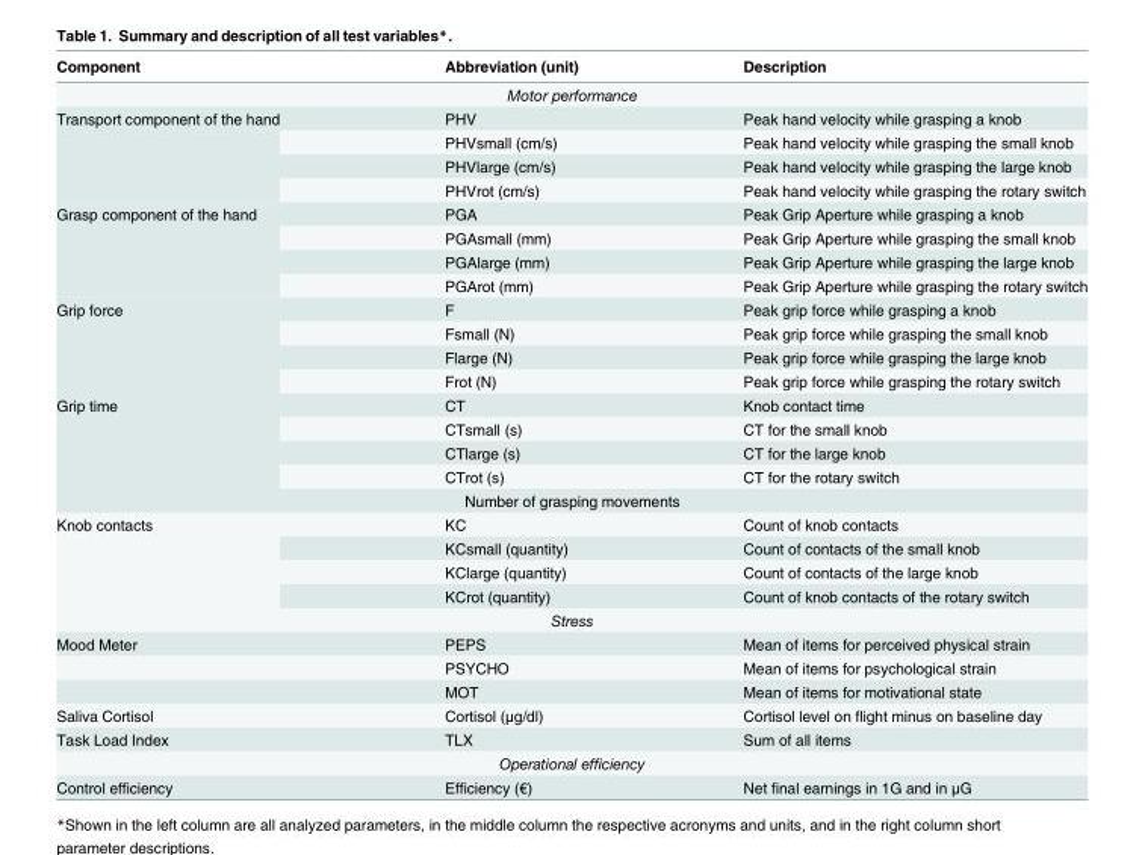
<table><thead><tr><td>Component</td><td>Abbreviation (unit)</td><td>Description</td></tr></thead><tbody><tr><td colspan="3">Motor performance</td></tr><tr><td rowspan="4">Transport component of the hand</td><td>PHV</td><td>Peak hand velocity while grasping a knob</td></tr><tr><td>PHVsmall (cm/s)</td><td>Peak hand velocity while grasping the small knob</td></tr><tr><td>PHVlarge (cm/s)</td><td>Peak hand velocity while grasping the large knob</td></tr><tr><td>PHVrot (cm/s)</td><td>Peak hand velocity while grasping the rotary switch</td></tr><tr><td rowspan="4">Grasp component of the hand</td><td>PGA</td><td>Peak Grip Aperture while grasping a knob</td></tr><tr><td>PGAsmall (mm)</td><td>Peak Grip Aperture while grasping the small knob</td></tr><tr><td>PGAlarge (mm)</td><td>Peak Grip Aperture while grasping the large knob</td></tr><tr><td>PGArot (mm)</td><td>Peak Grip Aperture while grasping the rotary switch</td></tr><tr><td rowspan="4">Grip force</td><td>F</td><td>Peak grip force while grasping a knob</td></tr><tr><td>Fsmall (N)</td><td>Peak grip force while grasping the small knob</td></tr><tr><td>Flarge (N)</td><td>Peak grip force while grasping the large knob</td></tr><tr><td>Frot (N)</td><td>Peak grip force while grasping the rotary switch</td></tr><tr><td rowspan="4">Grip time</td><td>CT</td><td>Knob contact time</td></tr><tr><td>CTsmall (s)</td><td>CT for the small knob</td></tr><tr><td>CTlarge (s)</td><td>CT for the large knob</td></tr><tr><td>CTrot (s)</td><td>CT for the rotary switch</td></tr><tr><td colspan="3">Number of grasping movements</td></tr><tr><td rowspan="4">Knob contacts</td><td>KC</td><td>Count of knob contacts</td></tr><tr><td>KCsmall (quantity)</td><td>Count of contacts of the small knob</td></tr><tr><td>KClarge (quantity)</td><td>Count of contacts of the large knob</td></tr><tr><td>KCrot (quantity)</td><td>Count of knob contacts of the rotary switch</td></tr><tr><td colspan="3">Stress</td></tr><tr><td rowspan="3">Mood Meter</td><td>PEPS</td><td>Mean of items for perceived physical strain</td></tr><tr><td>PSYCHO</td><td>Mean of items for psychological strain</td></tr><tr><td>MOT</td><td>Mean of items for motivational state</td></tr><tr><td>Saliva Cortisol</td><td>Cortisol (μg/dl)</td><td>Cortisol level on flight minus on baseline day</td></tr><tr><td>Task Load Index</td><td>TLX</td><td>Sum of all items</td></tr><tr><td colspan="3">Operational efficiency</td></tr><tr><td>Control efficiency</td><td>Efficiency (€)</td><td>Net final earnings in 1G and in μG</td></tr></tbody></table>